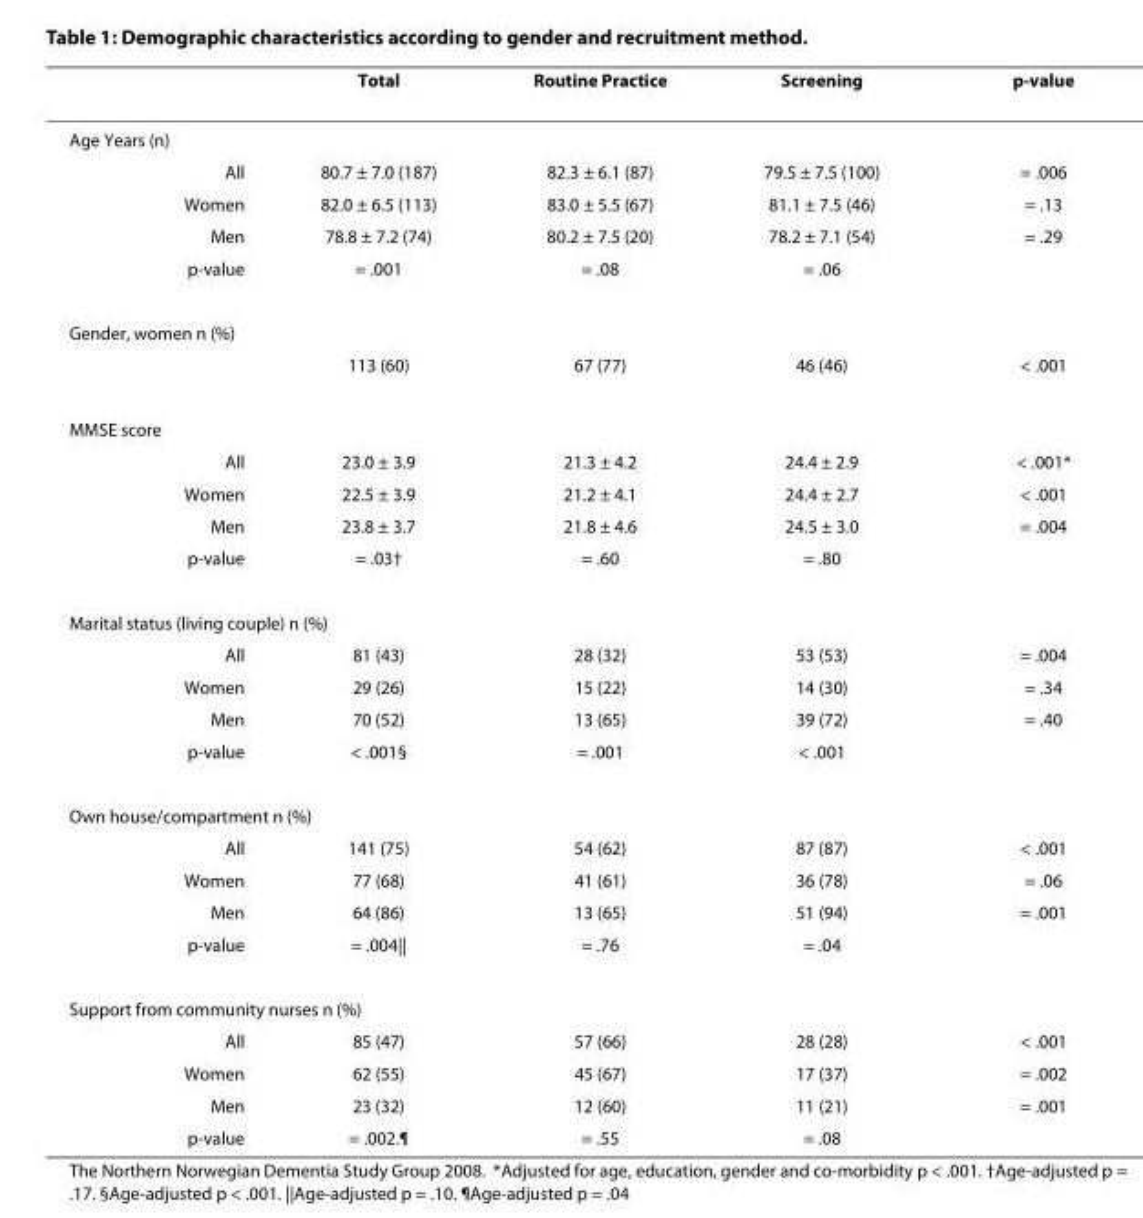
<table><thead><tr><td></td><td>Total</td><td>Routine Practice</td><td>Screening</td><td>p-value</td></tr></thead><tbody><tr><td colspan="5">Age Years (n)</td></tr><tr><td>All</td><td>80.7 ± 7.0 (187)</td><td>82.3 ± 6.1 (87)</td><td>79.5 ± 7.5 (100)</td><td>= .006</td></tr><tr><td>Women</td><td>82.0 ± 6.5 (113)</td><td>83.0 ± 5.5 (67)</td><td>81.1 ± 7.5 (46)</td><td>= .13</td></tr><tr><td>Men</td><td>78.8 ± 7.2 (74)</td><td>80.2 ± 7.5 (20)</td><td>78.2 ± 7.1 (54)</td><td>= .29</td></tr><tr><td>p-value</td><td>= .001</td><td>= .08</td><td>= .06</td><td></td></tr><tr><td colspan="5">Gender, women n (%)</td></tr><tr><td></td><td>113 (60)</td><td>67 (77)</td><td>46 (46)</td><td>&lt; .001</td></tr><tr><td colspan="5">MMSE score</td></tr><tr><td>All</td><td>23.0 ± 3.9</td><td>21.3 ± 4.2</td><td>24.4 ± 2.9</td><td>&lt; .001*</td></tr><tr><td>Women</td><td>22.5 ± 3.9</td><td>21.2 ± 4.1</td><td>24.4 ± 2.7</td><td>&lt; .001</td></tr><tr><td>Men</td><td>23.8 ± 3.7</td><td>21.8 ± 4.6</td><td>24.5 ± 3.0</td><td>= .004</td></tr><tr><td>p-value</td><td>= .03†</td><td>= .60</td><td>= .80</td><td></td></tr><tr><td colspan="5">Marital status (living couple) n (%)</td></tr><tr><td>All</td><td>81 (43)</td><td>28 (32)</td><td>53 (53)</td><td>= .004</td></tr><tr><td>Women</td><td>29 (26)</td><td>15 (22)</td><td>14 (30)</td><td>= .34</td></tr><tr><td>Men</td><td>70 (52)</td><td>13 (65)</td><td>39 (72)</td><td>= .40</td></tr><tr><td>p-value</td><td>&lt; .001§</td><td>= .001</td><td>&lt; .001</td><td></td></tr><tr><td colspan="5">Own house/compartment n (%)</td></tr><tr><td>All</td><td>141 (75)</td><td>54 (62)</td><td>87 (87)</td><td>&lt; .001</td></tr><tr><td>Women</td><td>77 (68)</td><td>41 (61)</td><td>36 (78)</td><td>= .06</td></tr><tr><td>Men</td><td>64 (86)</td><td>13 (65)</td><td>51 (94)</td><td>= .001</td></tr><tr><td>p-value</td><td>= .004||</td><td>= .76</td><td>= .04</td><td></td></tr><tr><td colspan="5">Support from community nurses n (%)</td></tr><tr><td>All</td><td>85 (47)</td><td>57 (66)</td><td>28 (28)</td><td>&lt; .001</td></tr><tr><td>Women</td><td>62 (55)</td><td>45 (67)</td><td>17 (37)</td><td>= .002</td></tr><tr><td>Men</td><td>23 (32)</td><td>12 (60)</td><td>11 (21)</td><td>= .001</td></tr><tr><td>p-value</td><td>= .002.¶</td><td>= .55</td><td>= .08</td><td></td></tr></tbody></table>